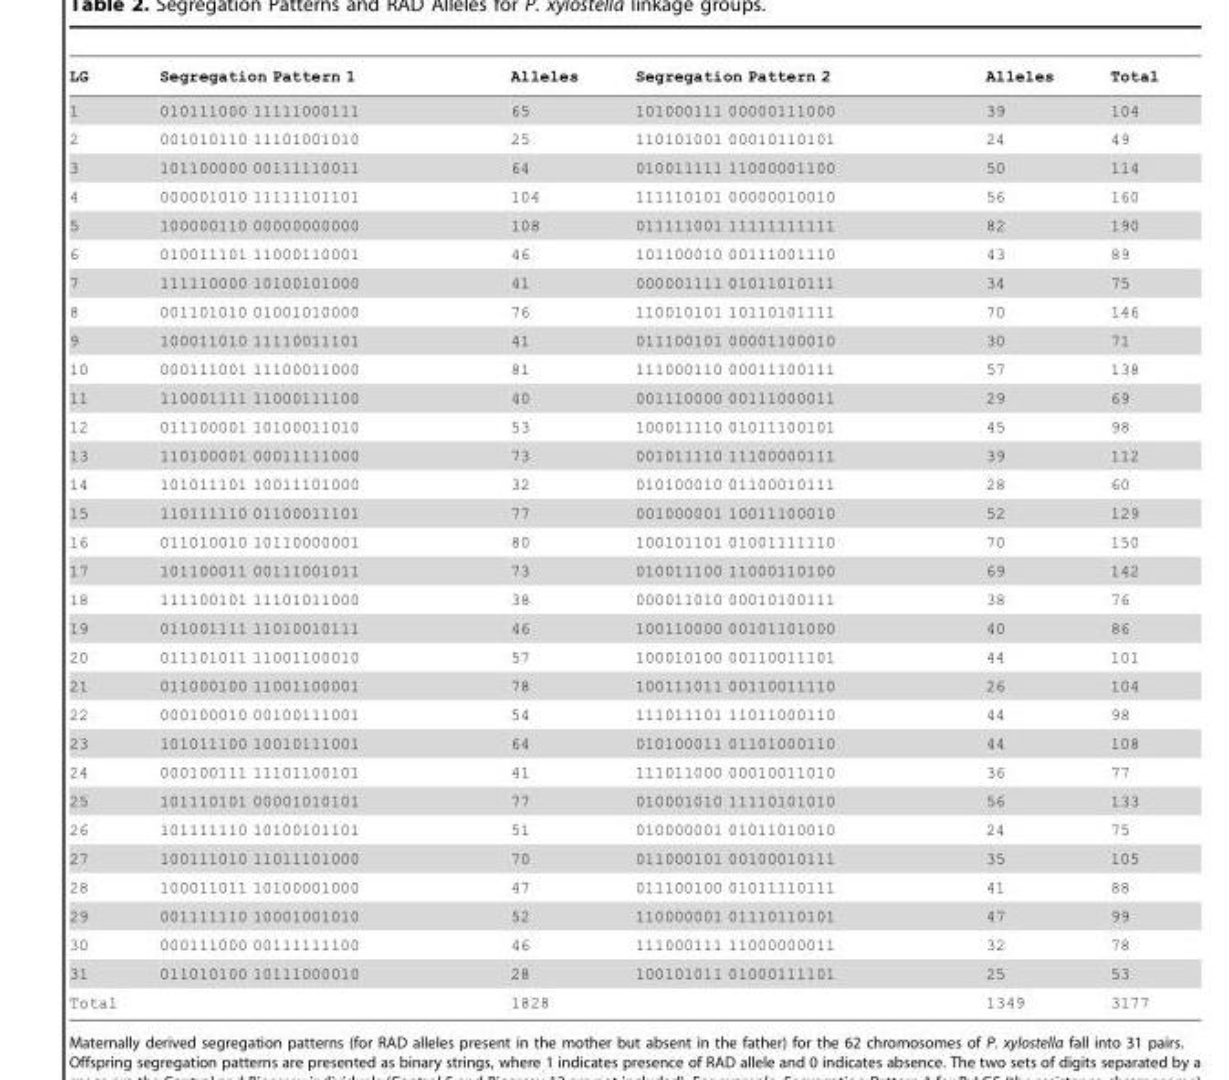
<table><thead><tr><td>LG</td><td>Segregation Pattern 1</td><td>Alleles</td><td>Segregation Pattern 2</td><td>Alleles</td><td>Total</td></tr></thead><tbody><tr><td>1</td><td>010111000 11111000111</td><td>65</td><td>101000111 00000111000</td><td>39</td><td>104</td></tr><tr><td>2</td><td>001010110 11101001010</td><td>25</td><td>110101001 00010110101</td><td>24</td><td>49</td></tr><tr><td>3</td><td>101100000 00111110011</td><td>64</td><td>010011111 11000001100</td><td>50</td><td>114</td></tr><tr><td>4</td><td>000001010 11111101101</td><td>104</td><td>111110101 00000010010</td><td>56</td><td>160</td></tr><tr><td>5</td><td>100000110 00000000000</td><td>108</td><td>011111001 11111111111</td><td>82</td><td>190</td></tr><tr><td>6</td><td>010011101 11000110001</td><td>46</td><td>101100010 00111001110</td><td>43</td><td>89</td></tr><tr><td>7</td><td>111110000 10100101000</td><td>41</td><td>000001111 01011010111</td><td>34</td><td>75</td></tr><tr><td>8</td><td>001101010 01001010000</td><td>76</td><td>110010101 10110101111</td><td>70</td><td>146</td></tr><tr><td>9</td><td>100011010 11110011101</td><td>41</td><td>011100101 00001100010</td><td>30</td><td>71</td></tr><tr><td>10</td><td>000111001 11100011000</td><td>81</td><td>111000110 00011100111</td><td>57</td><td>138</td></tr><tr><td>11</td><td>110001111 11000111100</td><td>40</td><td>001110000 00111000011</td><td>29</td><td>69</td></tr><tr><td>12</td><td>011100001 10100011010</td><td>53</td><td>100011110 01011100101</td><td>45</td><td>98</td></tr><tr><td>13</td><td>110100001 00011111000</td><td>73</td><td>001011110 11100000111</td><td>39</td><td>112</td></tr><tr><td>14</td><td>101011101 10011101000</td><td>32</td><td>010100010 01100010111</td><td>28</td><td>60</td></tr><tr><td>15</td><td>110111110 01100011101</td><td>77</td><td>001000001 10011100010</td><td>52</td><td>129</td></tr><tr><td>16</td><td>011010010 10110000001</td><td>80</td><td>100101101 01001111110</td><td>70</td><td>150</td></tr><tr><td>17</td><td>101100011 00111001011</td><td>73</td><td>010011100 11000110100</td><td>69</td><td>142</td></tr><tr><td>18</td><td>111100101 11101011000</td><td>38</td><td>000011010 00010100111</td><td>38</td><td>76</td></tr><tr><td>19</td><td>011001111 11010010111</td><td>46</td><td>100110000 00101101000</td><td>40</td><td>86</td></tr><tr><td>20</td><td>011101011 11001100010</td><td>57</td><td>100010100 00110011101</td><td>44</td><td>101</td></tr><tr><td>21</td><td>011000100 11001100001</td><td>78</td><td>100111011 00110011110</td><td>26</td><td>104</td></tr><tr><td>22</td><td>000100010 00100111001</td><td>54</td><td>111011101 11011000110</td><td>44</td><td>98</td></tr><tr><td>23</td><td>101011100 10010111001</td><td>64</td><td>010100011 01101000110</td><td>44</td><td>108</td></tr><tr><td>24</td><td>000100111 11101100101</td><td>41</td><td>111011000 00010011010</td><td>36</td><td>77</td></tr><tr><td>25</td><td>101110101 00001010101</td><td>77</td><td>010001010 11110101010</td><td>56</td><td>133</td></tr><tr><td>26</td><td>101111110 10100101101</td><td>51</td><td>010000001 01011010010</td><td>24</td><td>75</td></tr><tr><td>27</td><td>100111010 11011101000</td><td>70</td><td>011000101 00100010111</td><td>35</td><td>105</td></tr><tr><td>28</td><td>100011011 10100001000</td><td>47</td><td>011100100 01011110111</td><td>41</td><td>88</td></tr><tr><td>29</td><td>001111110 10001001010</td><td>52</td><td>110000001 01110110101</td><td>47</td><td>99</td></tr><tr><td>30</td><td>000111000 00111111100</td><td>46</td><td>111000111 11000000011</td><td>32</td><td>78</td></tr><tr><td>31</td><td>011010100 10111000010</td><td>28</td><td>100101011 01000111101</td><td>25</td><td>53</td></tr><tr><td>Total</td><td></td><td>1828</td><td></td><td>1349</td><td>3177</td></tr></tbody></table>